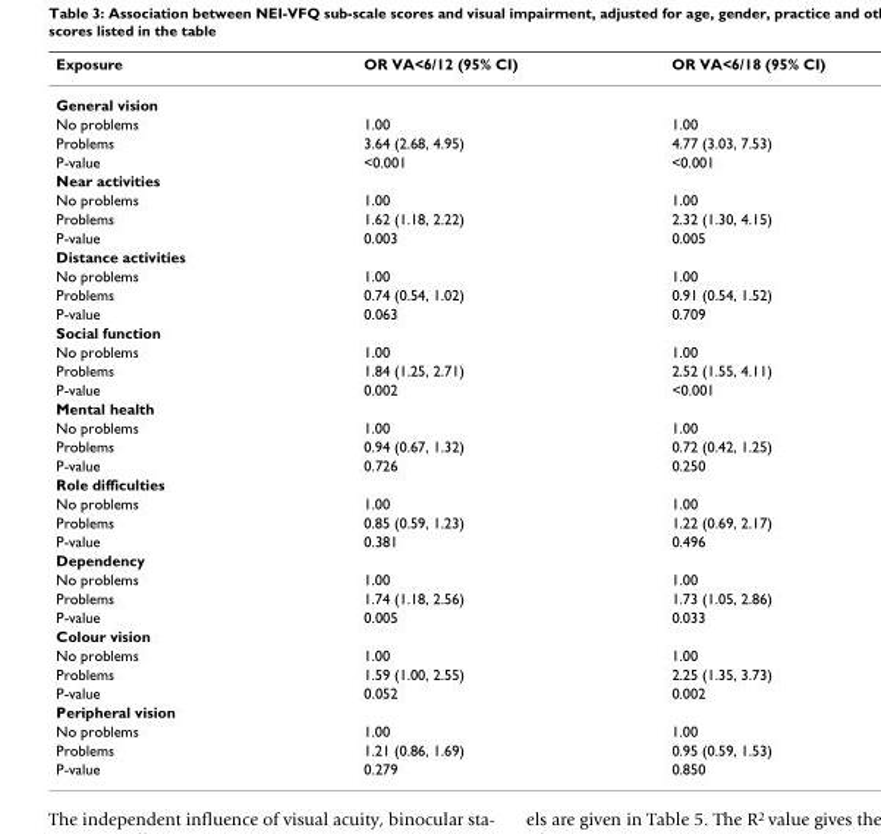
<table><thead><tr><td>Exposure</td><td>OR VA&lt;6/12 (95% CI)</td><td>OR VA&lt;6/18 (95% CI)</td></tr></thead><tbody><tr><td colspan="3">General vision</td></tr><tr><td>No problems</td><td>1.00</td><td>1.00</td></tr><tr><td>Problems</td><td>3.64 (2.68, 4.95)</td><td>4.77 (3.03, 7.53)</td></tr><tr><td>P-value</td><td>&lt;0.001</td><td>&lt;0.001</td></tr><tr><td colspan="3">Near activities</td></tr><tr><td>No problems</td><td>1.00</td><td>1.00</td></tr><tr><td>Problems</td><td>1.62 (1.18, 2.22)</td><td>2.32 (1.30, 4.15)</td></tr><tr><td>P-value</td><td>0.003</td><td>0.005</td></tr><tr><td colspan="3">Distance activities</td></tr><tr><td>No problems</td><td>1.00</td><td>1.00</td></tr><tr><td>Problems</td><td>0.74 (0.54, 1.02)</td><td>0.91 (0.54, 1.52)</td></tr><tr><td>P-value</td><td>0.063</td><td>0.709</td></tr><tr><td colspan="3">Social function</td></tr><tr><td>No problems</td><td>1.00</td><td>1.00</td></tr><tr><td>Problems</td><td>1.84 (1.25, 2.71)</td><td>2.52 (1.55, 4.11)</td></tr><tr><td>P-value</td><td>0.002</td><td>&lt;0.001</td></tr><tr><td colspan="3">Mental health</td></tr><tr><td>No problems</td><td>1.00</td><td>1.00</td></tr><tr><td>Problems</td><td>0.94 (0.67, 1.32)</td><td>0.72 (0.42, 1.25)</td></tr><tr><td>P-value</td><td>0.726</td><td>0.250</td></tr><tr><td colspan="3">Role difficulties</td></tr><tr><td>No problems</td><td>1.00</td><td>1.00</td></tr><tr><td>Problems</td><td>0.85 (0.59, 1.23)</td><td>1.22 (0.69, 2.17)</td></tr><tr><td>P-value</td><td>0.381</td><td>0.496</td></tr><tr><td colspan="3">Dependency</td></tr><tr><td>No problems</td><td>1.00</td><td>1.00</td></tr><tr><td>Problems</td><td>1.74 (1.18, 2.56)</td><td>1.73 (1.05, 2.86)</td></tr><tr><td>P-value</td><td>0.005</td><td>0.033</td></tr><tr><td colspan="3">Colour vision</td></tr><tr><td>No problems</td><td>1.00</td><td>1.00</td></tr><tr><td>Problems</td><td>1.59 (1.00, 2.55)</td><td>2.25 (1.35, 3.73)</td></tr><tr><td>P-value</td><td>0.052</td><td>0.002</td></tr><tr><td colspan="3">Peripheral vision</td></tr><tr><td>No problems</td><td>1.00</td><td>1.00</td></tr><tr><td>Problems</td><td>1.21 (0.86, 1.69)</td><td>0.95 (0.59, 1.53)</td></tr><tr><td>P-value</td><td>0.279</td><td>0.850</td></tr></tbody></table>